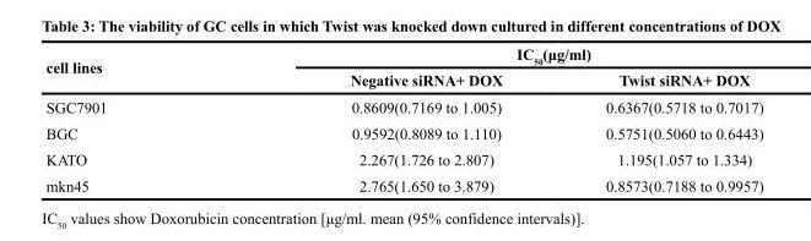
<table><thead><tr><td rowspan="2">cell lines</td><td colspan="2">IC<sub>50</sub>(μg/ml)</td></tr><tr><td>Negative siRNA+ DOX</td><td>Twist siRNA+ DOX</td></tr></thead><tbody><tr><td>SGC7901</td><td>0.8609(0.7169 to 1.005)</td><td>0.6367(0.5718 to 0.7017)</td></tr><tr><td>BGC</td><td>0.9592(0.8089 to 1.110)</td><td>0.5751(0.5060 to 0.6443)</td></tr><tr><td>KATO</td><td>2.267(1.726 to 2.807)</td><td>1.195(1.057 to 1.334)</td></tr><tr><td>mkn45</td><td>2.765(1.650 to 3.879)</td><td>0.8573(0.7188 to 0.9957)</td></tr></tbody></table>